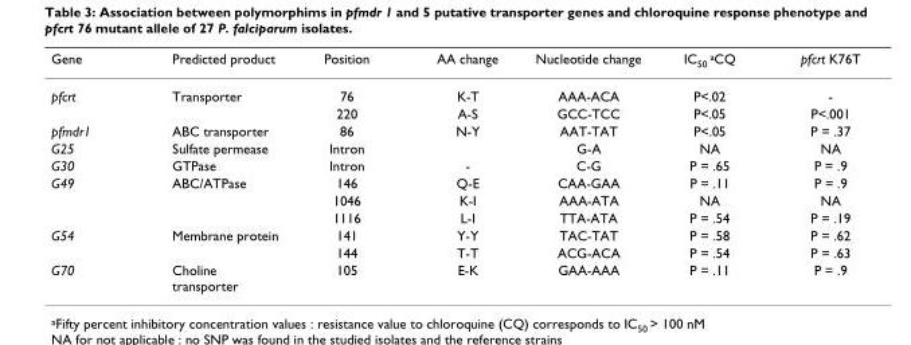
<table><thead><tr><td>Gene</td><td>Predicted product</td><td>Position</td><td>AA change</td><td>Nucleotide change</td><td>IC<sub>50</sub> <sup>a</sup>CQ</td><td>pfcrt K76T</td></tr></thead><tbody><tr><td rowspan="2">pfcrt</td><td>Transporter</td><td>76</td><td>K-T</td><td>AAA-ACA</td><td>P&lt;.02</td><td>-</td></tr><tr><td></td><td>220</td><td>A-S</td><td>GCC-TCC</td><td>P&lt;.05</td><td>P&lt;.001</td></tr><tr><td>pfmdr1</td><td>ABC transporter</td><td>86</td><td>N-Y</td><td>AAT-TAT</td><td>P&lt;.05</td><td>P = .37</td></tr><tr><td>G25</td><td>Sulfate permease</td><td>Intron</td><td></td><td>G-A</td><td>NA</td><td>NA</td></tr><tr><td>G30</td><td>GTPase</td><td>Intron</td><td>-</td><td>C-G</td><td>P = .65</td><td>P = .9</td></tr><tr><td rowspan="3">G49</td><td>ABC/ATPase</td><td>146</td><td>Q-E</td><td>CAA-GAA</td><td>P = .11</td><td>P = .9</td></tr><tr><td></td><td>1046</td><td>K-I</td><td>AAA-ATA</td><td>NA</td><td>NA</td></tr><tr><td></td><td>1116</td><td>L-I</td><td>TTA-ATA</td><td>P = .54</td><td>P = .19</td></tr><tr><td rowspan="2">G54</td><td>Membrane protein</td><td>141</td><td>Y-Y</td><td>TAC-TAT</td><td>P = .58</td><td>P = .62</td></tr><tr><td></td><td>144</td><td>T-T</td><td>ACG-ACA</td><td>P = .54</td><td>P = .63</td></tr><tr><td>G70</td><td>Choline transporter</td><td>105</td><td>E-K</td><td>GAA-AAA</td><td>P = .11</td><td>P = .9</td></tr></tbody></table>